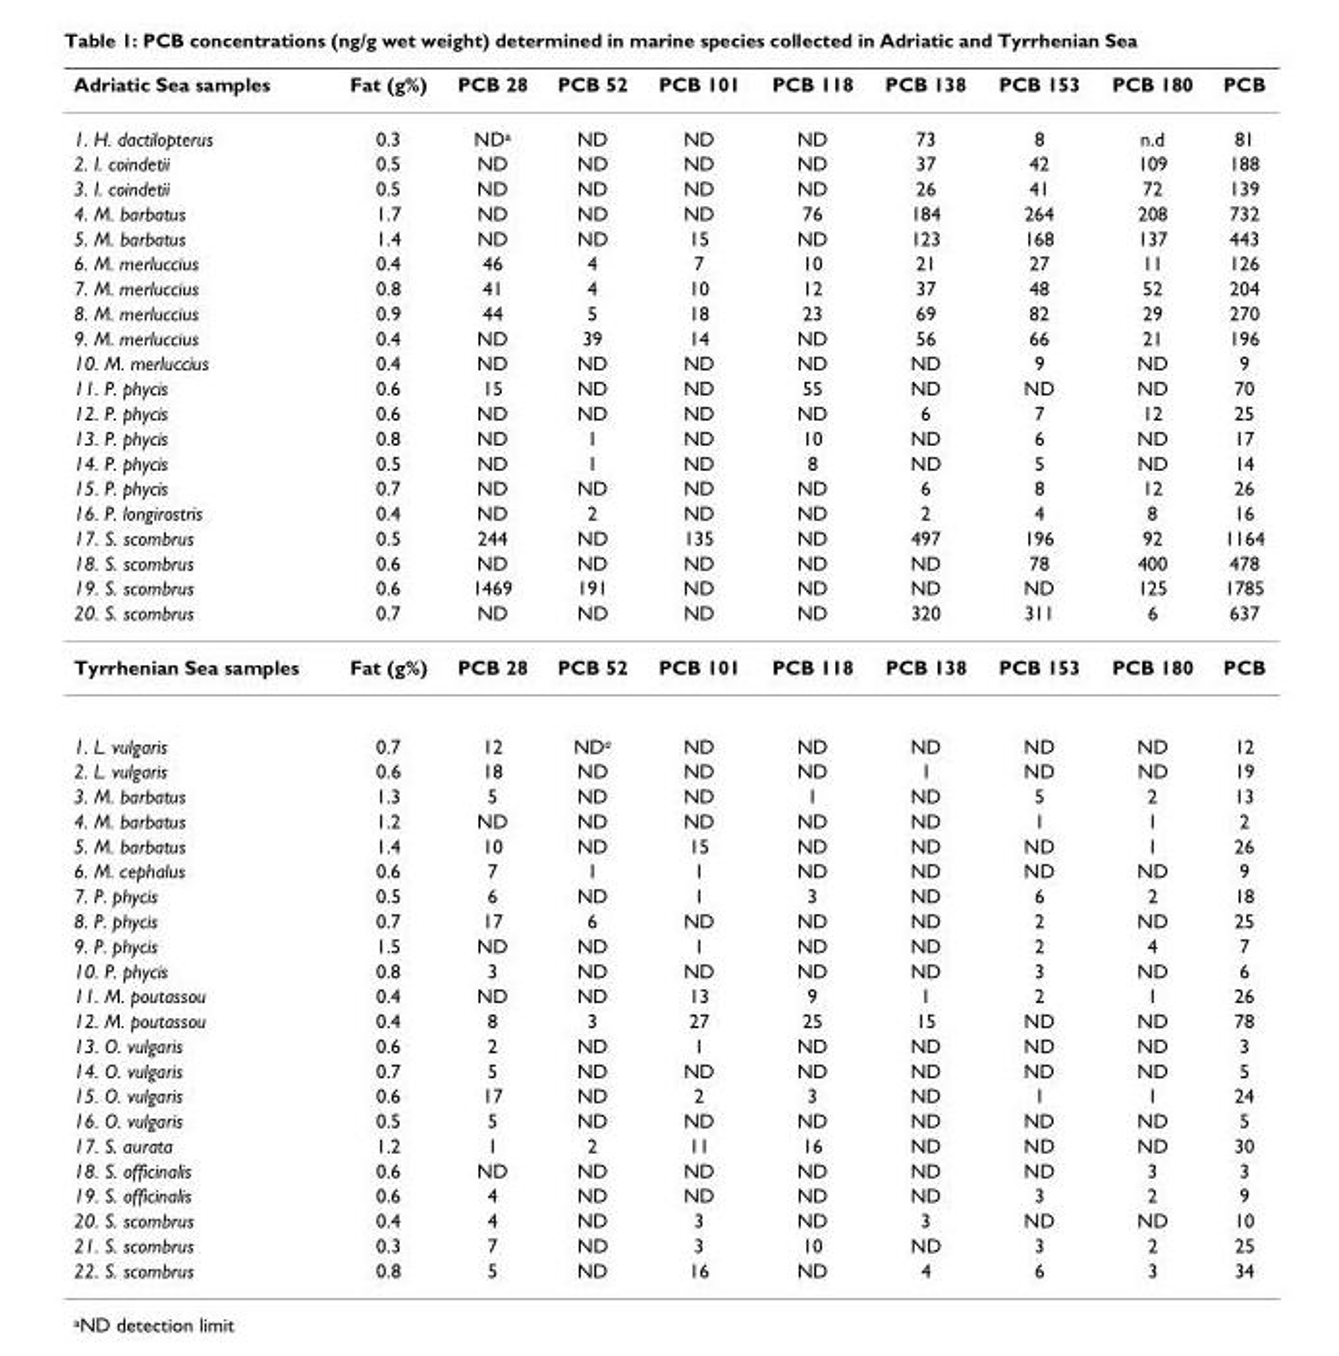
<table><thead><tr><td>Adriatic Sea samples</td><td>Fat (g%)</td><td>PCB 28</td><td>PCB 52</td><td>PCB 101</td><td>PCB 118</td><td>PCB 138</td><td>PCB 153</td><td>PCB 180</td><td>PCB</td></tr></thead><tbody><tr><td>1. H. dactilopterus</td><td>0.3</td><td>ND<sup>a</sup></td><td>ND</td><td>ND</td><td>ND</td><td>73</td><td>8</td><td>n.d</td><td>81</td></tr><tr><td>2. I. coindetii</td><td>0.5</td><td>ND</td><td>ND</td><td>ND</td><td>ND</td><td>37</td><td>42</td><td>109</td><td>188</td></tr><tr><td>3. I. coindetii</td><td>0.5</td><td>ND</td><td>ND</td><td>ND</td><td>ND</td><td>26</td><td>41</td><td>72</td><td>139</td></tr><tr><td>4. M. barbatus</td><td>1.7</td><td>ND</td><td>ND</td><td>ND</td><td>76</td><td>184</td><td>264</td><td>208</td><td>732</td></tr><tr><td>5. M. barbatus</td><td>1.4</td><td>ND</td><td>ND</td><td>15</td><td>ND</td><td>123</td><td>168</td><td>137</td><td>443</td></tr><tr><td>6. M. merluccius</td><td>0.4</td><td>46</td><td>4</td><td>7</td><td>10</td><td>21</td><td>27</td><td>11</td><td>126</td></tr><tr><td>7. M. merluccius</td><td>0.8</td><td>41</td><td>4</td><td>10</td><td>12</td><td>37</td><td>48</td><td>52</td><td>204</td></tr><tr><td>8. M. merluccius</td><td>0.9</td><td>44</td><td>5</td><td>18</td><td>23</td><td>69</td><td>82</td><td>29</td><td>270</td></tr><tr><td>9. M. merluccius</td><td>0.4</td><td>ND</td><td>39</td><td>14</td><td>ND</td><td>56</td><td>66</td><td>21</td><td>196</td></tr><tr><td>10. M. merluccius</td><td>0.4</td><td>ND</td><td>ND</td><td>ND</td><td>ND</td><td>ND</td><td>9</td><td>ND</td><td>9</td></tr><tr><td>11. P. phycis</td><td>0.6</td><td>15</td><td>ND</td><td>ND</td><td>55</td><td>ND</td><td>ND</td><td>ND</td><td>70</td></tr><tr><td>12. P. phycis</td><td>0.6</td><td>ND</td><td>ND</td><td>ND</td><td>ND</td><td>6</td><td>7</td><td>12</td><td>25</td></tr><tr><td>13. P. phycis</td><td>0.8</td><td>ND</td><td>1</td><td>ND</td><td>10</td><td>ND</td><td>6</td><td>ND</td><td>17</td></tr><tr><td>14. P. phycis</td><td>0.5</td><td>ND</td><td>1</td><td>ND</td><td>8</td><td>ND</td><td>5</td><td>ND</td><td>14</td></tr><tr><td>15. P. phycis</td><td>0.7</td><td>ND</td><td>ND</td><td>ND</td><td>ND</td><td>6</td><td>8</td><td>12</td><td>26</td></tr><tr><td>16. P. longirostris</td><td>0.4</td><td>ND</td><td>2</td><td>ND</td><td>ND</td><td>2</td><td>4</td><td>8</td><td>16</td></tr><tr><td>17. S. scombrus</td><td>0.5</td><td>244</td><td>ND</td><td>135</td><td>ND</td><td>497</td><td>196</td><td>92</td><td>1164</td></tr><tr><td>18. S. scombrus</td><td>0.6</td><td>ND</td><td>ND</td><td>ND</td><td>ND</td><td>ND</td><td>78</td><td>400</td><td>478</td></tr><tr><td>19. S. scombrus</td><td>0.6</td><td>1469</td><td>191</td><td>ND</td><td>ND</td><td>ND</td><td>ND</td><td>125</td><td>1785</td></tr><tr><td>20. S. scombrus</td><td>0.7</td><td>ND</td><td>ND</td><td>ND</td><td>ND</td><td>320</td><td>311</td><td>6</td><td>637</td></tr><tr><td>Tyrrhenian Sea samples</td><td>Fat (g%)</td><td>PCB 28</td><td>PCB 52</td><td>PCB 101</td><td>PCB 118</td><td>PCB 138</td><td>PCB 153</td><td>PCB 180</td><td>PCB</td></tr><tr><td>1. L. vulgaris</td><td>0.7</td><td>12</td><td>ND<sup>a</sup></td><td>ND</td><td>ND</td><td>ND</td><td>ND</td><td>ND</td><td>12</td></tr><tr><td>2. L. vulgaris</td><td>0.6</td><td>18</td><td>ND</td><td>ND</td><td>ND</td><td>1</td><td>ND</td><td>ND</td><td>19</td></tr><tr><td>3. M. barbatus</td><td>1.3</td><td>5</td><td>ND</td><td>ND</td><td>1</td><td>ND</td><td>5</td><td>2</td><td>13</td></tr><tr><td>4. M. barbatus</td><td>1.2</td><td>ND</td><td>ND</td><td>ND</td><td>ND</td><td>ND</td><td>1</td><td>1</td><td>2</td></tr><tr><td>5. M. barbatus</td><td>1.4</td><td>10</td><td>ND</td><td>15</td><td>ND</td><td>ND</td><td>ND</td><td>1</td><td>26</td></tr><tr><td>6. M. cephalus</td><td>0.6</td><td>7</td><td>1</td><td>1</td><td>ND</td><td>ND</td><td>ND</td><td>ND</td><td>9</td></tr><tr><td>7. P. phycis</td><td>0.5</td><td>6</td><td>ND</td><td>1</td><td>3</td><td>ND</td><td>6</td><td>2</td><td>18</td></tr><tr><td>8. P. phycis</td><td>0.7</td><td>17</td><td>6</td><td>ND</td><td>ND</td><td>ND</td><td>2</td><td>ND</td><td>25</td></tr><tr><td>9. P. phycis</td><td>1.5</td><td>ND</td><td>ND</td><td>1</td><td>ND</td><td>ND</td><td>2</td><td>4</td><td>7</td></tr><tr><td>10. P. phycis</td><td>0.8</td><td>3</td><td>ND</td><td>ND</td><td>ND</td><td>ND</td><td>3</td><td>ND</td><td>6</td></tr><tr><td>11. M. poutassou</td><td>0.4</td><td>ND</td><td>ND</td><td>13</td><td>9</td><td>1</td><td>2</td><td>1</td><td>26</td></tr><tr><td>12. M. poutassou</td><td>0.4</td><td>8</td><td>3</td><td>27</td><td>25</td><td>15</td><td>ND</td><td>ND</td><td>78</td></tr><tr><td>13. O. vulgaris</td><td>0.6</td><td>2</td><td>ND</td><td>1</td><td>ND</td><td>ND</td><td>ND</td><td>ND</td><td>3</td></tr><tr><td>14. O. vulgaris</td><td>0.7</td><td>5</td><td>ND</td><td>ND</td><td>ND</td><td>ND</td><td>ND</td><td>ND</td><td>5</td></tr><tr><td>15. O. vulgaris</td><td>0.6</td><td>17</td><td>ND</td><td>2</td><td>3</td><td>ND</td><td>1</td><td>1</td><td>24</td></tr><tr><td>16. O. vulgaris</td><td>0.5</td><td>5</td><td>ND</td><td>ND</td><td>ND</td><td>ND</td><td>ND</td><td>ND</td><td>5</td></tr><tr><td>17. S. aurata</td><td>1.2</td><td>1</td><td>2</td><td>11</td><td>16</td><td>ND</td><td>ND</td><td>ND</td><td>30</td></tr><tr><td>18. S. officinalis</td><td>0.6</td><td>ND</td><td>ND</td><td>ND</td><td>ND</td><td>ND</td><td>ND</td><td>3</td><td>3</td></tr><tr><td>19. S. officinalis</td><td>0.6</td><td>4</td><td>ND</td><td>ND</td><td>ND</td><td>ND</td><td>3</td><td>2</td><td>9</td></tr><tr><td>20. S. scombrus</td><td>0.4</td><td>4</td><td>ND</td><td>3</td><td>ND</td><td>3</td><td>ND</td><td>ND</td><td>10</td></tr><tr><td>21. S. scombrus</td><td>0.3</td><td>7</td><td>ND</td><td>3</td><td>10</td><td>ND</td><td>3</td><td>2</td><td>25</td></tr><tr><td>22. S. scombrus</td><td>0.8</td><td>5</td><td>ND</td><td>16</td><td>ND</td><td>4</td><td>6</td><td>3</td><td>34</td></tr></tbody></table>